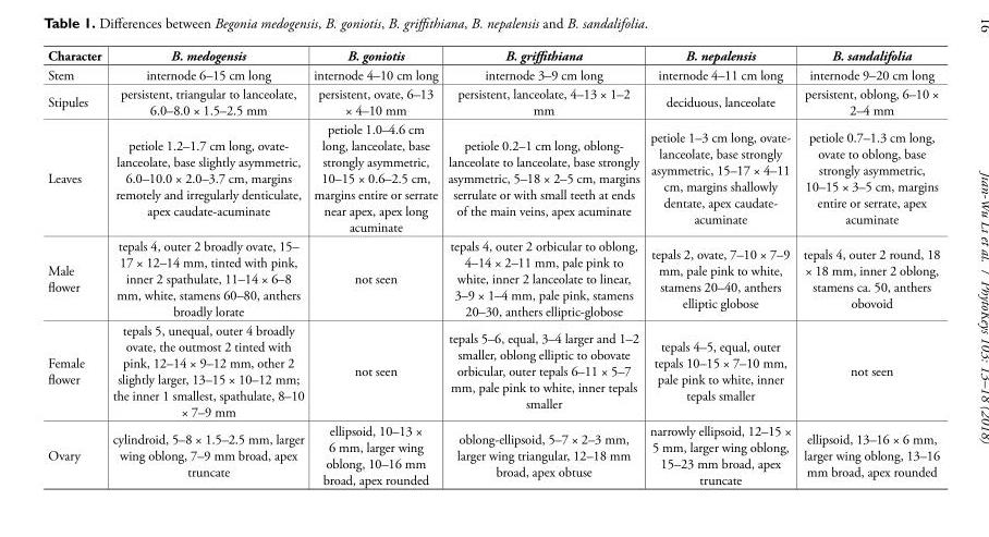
<table><thead><tr><td>Character</td><td>B. medogensis</td><td>B. goniotis</td><td>B. griffithiana</td><td>B. nepalensis</td><td>B. sandalifolia</td></tr></thead><tbody><tr><td>Stem</td><td>internode 6–15 cm long</td><td>internode 4–10 cm long</td><td>internode 3–9 cm long</td><td>internode 4–11 cm long</td><td>internode 9–20 cm long</td></tr><tr><td>Stipules</td><td>persistent, triangular to lanceolate, 6.0–8.0 × 1.5–2.5 mm</td><td>persistent, ovate, 6–13 × 4–10 mm</td><td>persistent, lanceolate, 4–13 × 1–2 mm</td><td>deciduous, lanceolate</td><td>persistent, oblong, 6–10 × 2–4 mm</td></tr><tr><td>Leaves</td><td>petiole 1.2–1.7 cm long, ovate- lanceolate, base slightly asymmetric, 6.0–10.0 × 2.0–3.7 cm, margins remotely and irregularly denticulate, apex caudate-acuminate</td><td>petiole 1.0–4.6 cm long, lanceolate, base strongly asymmetric, 10–15 × 0.6–2.5 cm, margins entire or serrate near apex, apex long acuminate</td><td>petiole 0.2–1 cm long, oblong- lanceolate to lanceolate, base strongly asymmetric, 5–18 × 2–5 cm, margins serrulate or with small teeth at ends of the main veins, apex acuminate</td><td>petiole 1–3 cm long, ovate- lanceolate, base strongly asymmetric, 15–17 × 4–11 cm, margins shallowly dentate, apex caudate- acuminate</td><td>petiole 0.7–1.3 cm long, ovate to oblong, base strongly asymmetric, 10–15 × 3–5 cm, margins entire or serrate, apex acuminate</td></tr><tr><td>Male flower</td><td>tepals 4, outer 2 broadly ovate, 15– 17 × 12–14 mm, tinted with pink, inner 2 spathulate, 11–14 × 6–8 mm, white, stamens 60–80, anthers broadly lorate</td><td>not seen</td><td>tepals 4, outer 2 orbicular to oblong, 4–14 × 2–11 mm, pale pink to white, inner 2 lanceolate to linear, 3–9 × 1–4 mm, pale pink, stamens 20–30, anthers elliptic-globose</td><td>tepals 2, ovate, 7–10 × 7–9 mm, pale pink to white, stamens 20–40, anthers elliptic globose</td><td>tepals 4, outer 2 round, 18 × 18 mm, inner 2 oblong, stamens ca. 50, anthers obovoid</td></tr><tr><td>Female flower</td><td>tepals 5, unequal, outer 4 broadly ovate, the outmost 2 tinted with pink, 12–14 × 9–12 mm, other 2 slightly larger, 13–15 × 10–12 mm; the inner 1 smallest, spathulate, 8–10 × 7–9 mm</td><td>not seen</td><td>tepals 5–6, equal, 3–4 larger and 1–2 smaller, oblong elliptic to obovate orbicular, outer tepals 6–11 × 5–7 mm, pale pink to white, inner tepals smaller</td><td>tepals 4–5, equal, outer tepals 10–15 × 7–10 mm, pale pink to white, inner tepals smaller</td><td>not seen</td></tr><tr><td>Ovary</td><td>cylindroid, 5–8 × 1.5–2.5 mm, larger wing oblong, 7–9 mm broad, apex truncate</td><td>ellipsoid, 10–13 × 6 mm, larger wing oblong, 10–16 mm broad, apex rounded</td><td>oblong-ellipsoid, 5–7 × 2–3 mm, larger wing triangular, 12–18 mm broad, apex obtuse</td><td>narrowly ellipsoid, 12–15 × 5 mm, larger wing oblong, 15–23 mm broad, apex truncate</td><td>ellipsoid, 13–16 × 6 mm, larger wing oblong, 13–16 mm broad, apex rounded</td></tr></tbody></table>